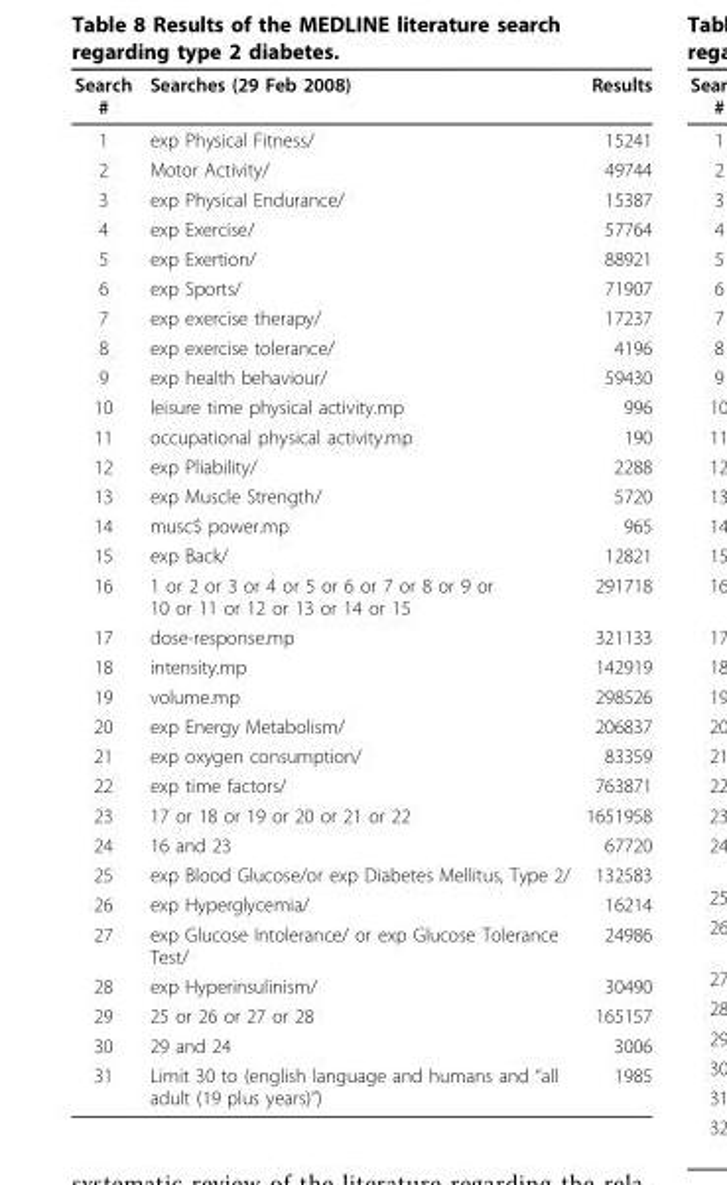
<table><thead><tr><td>Search #</td><td>Searches (29 Feb 2008)</td><td>Results</td></tr></thead><tbody><tr><td>1</td><td>exp Physical Fitness/</td><td>15241</td></tr><tr><td>2</td><td>Motor Activity/</td><td>49744</td></tr><tr><td>3</td><td>exp Physical Endurance/</td><td>15387</td></tr><tr><td>4</td><td>exp Exercise/</td><td>57764</td></tr><tr><td>5</td><td>exp Exertion/</td><td>88921</td></tr><tr><td>6</td><td>exp Sports/</td><td>71907</td></tr><tr><td>7</td><td>exp exercise therapy/</td><td>17237</td></tr><tr><td>8</td><td>exp exercise tolerance/</td><td>4196</td></tr><tr><td>9</td><td>exp health behaviour/</td><td>59430</td></tr><tr><td>10</td><td>leisure time physical activity.mp</td><td>996</td></tr><tr><td>11</td><td>occupational physical activity.mp</td><td>190</td></tr><tr><td>12</td><td>exp Pliability/</td><td>2288</td></tr><tr><td>13</td><td>exp Muscle Strength/</td><td>5720</td></tr><tr><td>14</td><td>musc$ power.mp</td><td>965</td></tr><tr><td>15</td><td>exp Back/</td><td>12821</td></tr><tr><td>16</td><td>1 or 2 or 3 or 4 or 5 or 6 or 7 or 8 or 9 or 10 or 11 or 12 or 13 or 14 or 15</td><td>291718</td></tr><tr><td>17</td><td>dose-response.mp</td><td>321133</td></tr><tr><td>18</td><td>intensity.mp</td><td>142919</td></tr><tr><td>19</td><td>volume.mp</td><td>298526</td></tr><tr><td>20</td><td>exp Energy Metabolism/</td><td>206837</td></tr><tr><td>21</td><td>exp oxygen consumption/</td><td>83359</td></tr><tr><td>22</td><td>exp time factors/</td><td>763871</td></tr><tr><td>23</td><td>17 or 18 or 19 or 20 or 21 or 22</td><td>1651958</td></tr><tr><td>24</td><td>16 and 23</td><td>67720</td></tr><tr><td>25</td><td>exp Blood Glucose/or exp Diabetes Mellitus, Type 2/</td><td>132583</td></tr><tr><td>26</td><td>exp Hyperglycemia/</td><td>16214</td></tr><tr><td>27</td><td>exp Glucose Intolerance/ or exp Glucose Tolerance Test/</td><td>24986</td></tr><tr><td>28</td><td>exp Hyperinsulinism/</td><td>30490</td></tr><tr><td>29</td><td>25 or 26 or 27 or 28</td><td>165157</td></tr><tr><td>30</td><td>29 and 24</td><td>3006</td></tr><tr><td>31</td><td>Limit 30 to (english language and humans and “all adult (19 plus years)”)</td><td>1985</td></tr></tbody></table>